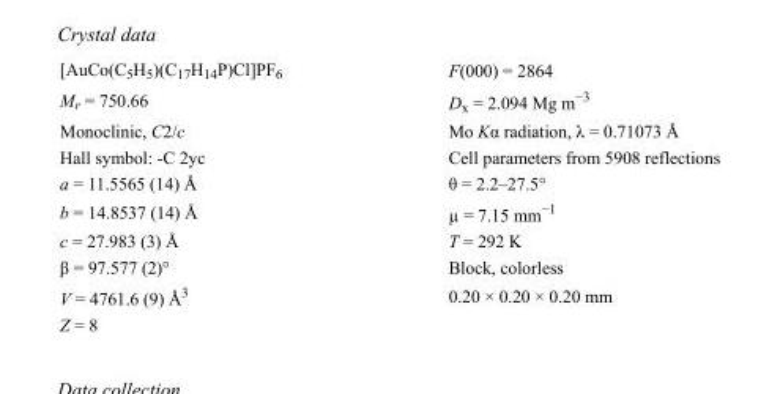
<table><tbody><tr><td>[AuCo(C<sub>5</sub>H<sub>5</sub>)(C<sub>17</sub>H<sub>14</sub>P)Cl]PF<sub>6</sub></td><td>F(000) = 2864</td></tr><tr><td>M<sub>r</sub> = 750.66</td><td>D<sub>x</sub> = 2.094 Mg m<sup>−3</sup></td></tr><tr><td>Monoclinic, C2/c</td><td>Mo Kα radiation, λ = 0.71073 Å</td></tr><tr><td>Hall symbol: -C 2yc</td><td>Cell parameters from 5908 reflections</td></tr><tr><td>a = 11.5565 (14) Å</td><td>θ = 2.2–27.5°</td></tr><tr><td>b = 14.8537 (14) Å</td><td>µ = 7.15 mm<sup>−1</sup></td></tr><tr><td>c = 27.983 (3) Å</td><td>T = 292 K</td></tr><tr><td>β = 97.577 (2)°</td><td>Block, colorless</td></tr><tr><td>V = 4761.6 (9) Å<sup>3</sup></td><td>0.20 × 0.20 × 0.20 mm</td></tr><tr><td>Z = 8</td><td></td></tr></tbody></table>